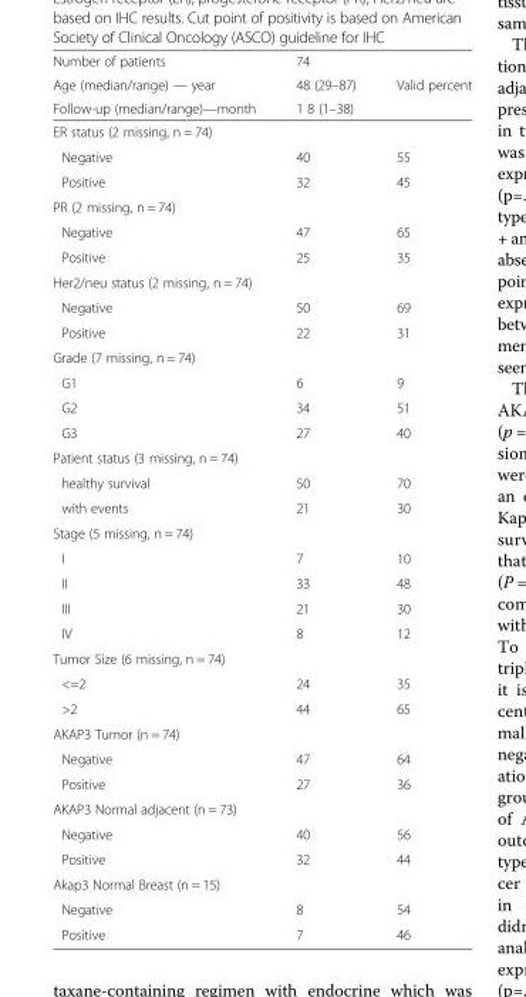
<table><thead><tr><td rowspan="3">Number of patients Age (median/range) — year Follow-up (median/range)—month</td><td rowspan="3">74 48 (29–87) 1 8 (1–38)</td><td rowspan="3">Valid percent</td></tr><tr></tr><tr></tr></thead><tbody><tr><td colspan="3">ER status (2 missing, n = 74)</td></tr><tr><td>Negative</td><td>40</td><td>55</td></tr><tr><td>Positive</td><td>32</td><td>45</td></tr><tr><td colspan="3">PR (2 missing, n = 74)</td></tr><tr><td>Negative</td><td>47</td><td>65</td></tr><tr><td>Positive</td><td>25</td><td>35</td></tr><tr><td colspan="3">Her2/neu status (2 missing, n = 74)</td></tr><tr><td>Negative</td><td>50</td><td>69</td></tr><tr><td>Positive</td><td>22</td><td>31</td></tr><tr><td colspan="3">Grade (7 missing, n = 74)</td></tr><tr><td>G1</td><td>6</td><td>9</td></tr><tr><td>G2</td><td>34</td><td>51</td></tr><tr><td>G3</td><td>27</td><td>40</td></tr><tr><td colspan="3">Patient status (3 missing, n = 74)</td></tr><tr><td>healthy survival</td><td>50</td><td>70</td></tr><tr><td>with events</td><td>21</td><td>30</td></tr><tr><td colspan="3">Stage (5 missing, n = 74)</td></tr><tr><td>I</td><td>7</td><td>10</td></tr><tr><td>II</td><td>33</td><td>48</td></tr><tr><td>III</td><td>21</td><td>30</td></tr><tr><td>IV</td><td>8</td><td>12</td></tr><tr><td colspan="3">Tumor Size (6 missing, n = 74)</td></tr><tr><td>&lt;=2</td><td>24</td><td>35</td></tr><tr><td>&gt;2</td><td>44</td><td>65</td></tr><tr><td colspan="3">AKAP3 Tumor (n = 74)</td></tr><tr><td>Negative</td><td>47</td><td>64</td></tr><tr><td>Positive</td><td>27</td><td>36</td></tr><tr><td colspan="3">AKAP3 Normal adjacent (n = 73)</td></tr><tr><td>Negative</td><td>40</td><td>56</td></tr><tr><td>Positive</td><td>32</td><td>44</td></tr><tr><td colspan="3">Akap3 Normal Breast (n = 15)</td></tr><tr><td>Negative</td><td>8</td><td>54</td></tr><tr><td>Positive</td><td>7</td><td>46</td></tr></tbody></table>